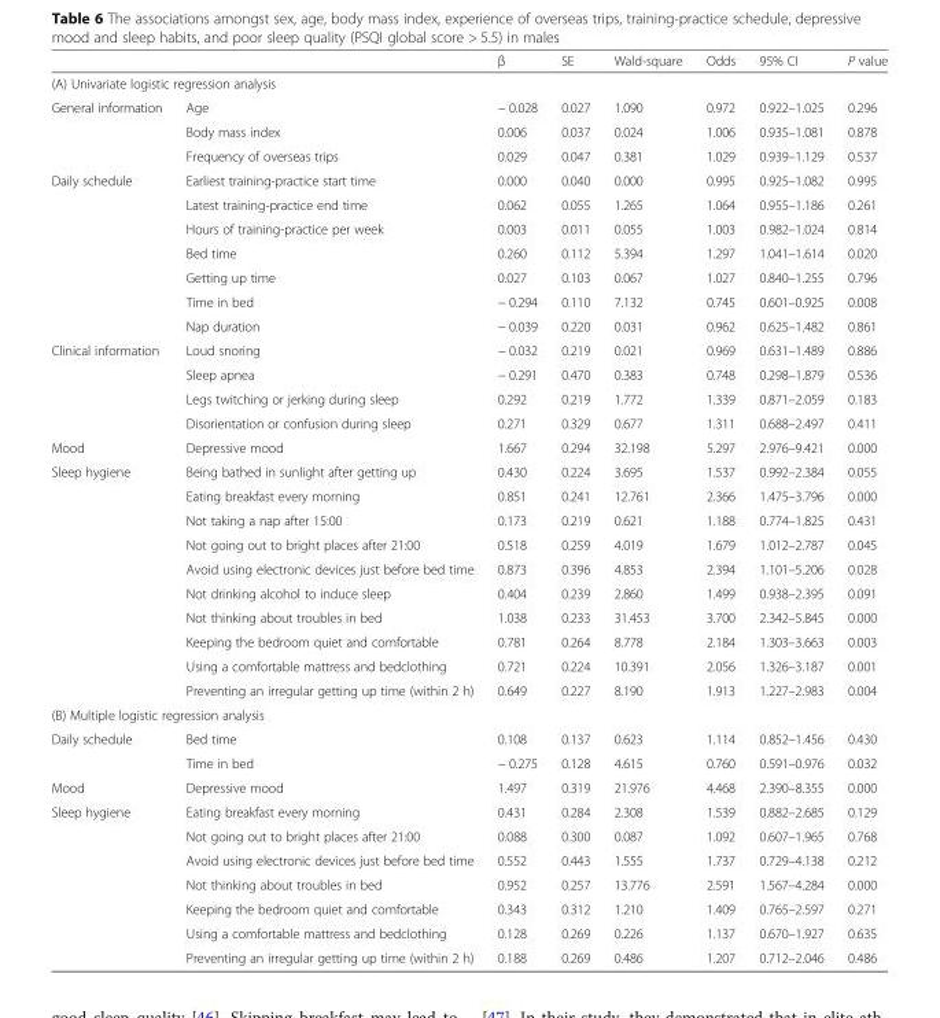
<table><thead><tr><td></td><td></td><td>β</td><td>SE</td><td>Wald-square</td><td>Odds</td><td>95% CI</td><td>P value</td></tr></thead><tbody><tr><td colspan="8">(A) Univariate logistic regression analysis</td></tr><tr><td rowspan="3">General information</td><td>Age</td><td>− 0.028</td><td>0.027</td><td>1.090</td><td>0.972</td><td>0.922–1.025</td><td>0.296</td></tr><tr><td>Body mass index</td><td>0.006</td><td>0.037</td><td>0.024</td><td>1.006</td><td>0.935–1.081</td><td>0.878</td></tr><tr><td>Frequency of overseas trips</td><td>0.029</td><td>0.047</td><td>0.381</td><td>1.029</td><td>0.939–1.129</td><td>0.537</td></tr><tr><td rowspan="7">Daily schedule</td><td>Earliest training-practice start time</td><td>0.000</td><td>0.040</td><td>0.000</td><td>0.995</td><td>0.925–1.082</td><td>0.995</td></tr><tr><td>Latest training-practice end time</td><td>0.062</td><td>0.055</td><td>1.265</td><td>1.064</td><td>0.955–1.186</td><td>0.261</td></tr><tr><td>Hours of training-practice per week</td><td>0.003</td><td>0.011</td><td>0.055</td><td>1.003</td><td>0.982–1.024</td><td>0.814</td></tr><tr><td>Bed time</td><td>0.260</td><td>0.112</td><td>5.394</td><td>1.297</td><td>1.041–1.614</td><td>0.020</td></tr><tr><td>Getting up time</td><td>0.027</td><td>0.103</td><td>0.067</td><td>1.027</td><td>0.840–1.255</td><td>0.796</td></tr><tr><td>Time in bed</td><td>− 0.294</td><td>0.110</td><td>7.132</td><td>0.745</td><td>0.601–0.925</td><td>0.008</td></tr><tr><td>Nap duration</td><td>− 0.039</td><td>0.220</td><td>0.031</td><td>0.962</td><td>0.625–1.482</td><td>0.861</td></tr><tr><td rowspan="4">Clinical information</td><td>Loud snoring</td><td>− 0.032</td><td>0.219</td><td>0.021</td><td>0.969</td><td>0.631–1.489</td><td>0.886</td></tr><tr><td>Sleep apnea</td><td>− 0.291</td><td>0.470</td><td>0.383</td><td>0.748</td><td>0.298–1.879</td><td>0.536</td></tr><tr><td>Legs twitching or jerking during sleep</td><td>0.292</td><td>0.219</td><td>1.772</td><td>1.339</td><td>0.871–2.059</td><td>0.183</td></tr><tr><td>Disorientation or confusion during sleep</td><td>0.271</td><td>0.329</td><td>0.677</td><td>1.311</td><td>0.688–2.497</td><td>0.411</td></tr><tr><td>Mood</td><td>Depressive mood</td><td>1.667</td><td>0.294</td><td>32.198</td><td>5.297</td><td>2.976–9.421</td><td>0.000</td></tr><tr><td rowspan="10">Sleep hygiene</td><td>Being bathed in sunlight after getting up</td><td>0.430</td><td>0.224</td><td>3.695</td><td>1.537</td><td>0.992–2.384</td><td>0.055</td></tr><tr><td>Eating breakfast every morning</td><td>0.851</td><td>0.241</td><td>12.761</td><td>2.366</td><td>1.475–3.796</td><td>0.000</td></tr><tr><td>Not taking a nap after 15:00</td><td>0.173</td><td>0.219</td><td>0.621</td><td>1.188</td><td>0.774–1.825</td><td>0.431</td></tr><tr><td>Not going out to bright places after 21:00</td><td>0.518</td><td>0.259</td><td>4.019</td><td>1.679</td><td>1.012–2.787</td><td>0.045</td></tr><tr><td>Avoid using electronic devices just before bed time</td><td>0.873</td><td>0.396</td><td>4.853</td><td>2.394</td><td>1.101–5.206</td><td>0.028</td></tr><tr><td>Not drinking alcohol to induce sleep</td><td>0.404</td><td>0.239</td><td>2.860</td><td>1.499</td><td>0.938–2.395</td><td>0.091</td></tr><tr><td>Not thinking about troubles in bed</td><td>1.038</td><td>0.233</td><td>31.453</td><td>3.700</td><td>2.342–5.845</td><td>0.000</td></tr><tr><td>Keeping the bedroom quiet and comfortable</td><td>0.781</td><td>0.264</td><td>8.778</td><td>2.184</td><td>1.303–3.663</td><td>0.003</td></tr><tr><td>Using a comfortable mattress and bedclothing</td><td>0.721</td><td>0.224</td><td>10.391</td><td>2.056</td><td>1.326–3.187</td><td>0.001</td></tr><tr><td>Preventing an irregular getting up time (within 2 h)</td><td>0.649</td><td>0.227</td><td>8.190</td><td>1.913</td><td>1.227–2.983</td><td>0.004</td></tr><tr><td colspan="8">(B) Multiple logistic regression analysis</td></tr><tr><td rowspan="2">Daily schedule</td><td>Bed time</td><td>0.108</td><td>0.137</td><td>0.623</td><td>1.114</td><td>0.852–1.456</td><td>0.430</td></tr><tr><td>Time in bed</td><td>− 0.275</td><td>0.128</td><td>4.615</td><td>0.760</td><td>0.591–0.976</td><td>0.032</td></tr><tr><td>Mood</td><td>Depressive mood</td><td>1.497</td><td>0.319</td><td>21.976</td><td>4.468</td><td>2.390–8.355</td><td>0.000</td></tr><tr><td rowspan="7">Sleep hygiene</td><td>Eating breakfast every morning</td><td>0.431</td><td>0.284</td><td>2.308</td><td>1.539</td><td>0.882–2.685</td><td>0.129</td></tr><tr><td>Not going out to bright places after 21:00</td><td>0.088</td><td>0.300</td><td>0.087</td><td>1.092</td><td>0.607–1.965</td><td>0.768</td></tr><tr><td>Avoid using electronic devices just before bed time</td><td>0.552</td><td>0.443</td><td>1.555</td><td>1.737</td><td>0.729–4.138</td><td>0.212</td></tr><tr><td>Not thinking about troubles in bed</td><td>0.952</td><td>0.257</td><td>13.776</td><td>2.591</td><td>1.567–4.284</td><td>0.000</td></tr><tr><td>Keeping the bedroom quiet and comfortable</td><td>0.343</td><td>0.312</td><td>1.210</td><td>1.409</td><td>0.765–2.597</td><td>0.271</td></tr><tr><td>Using a comfortable mattress and bedclothing</td><td>0.128</td><td>0.269</td><td>0.226</td><td>1.137</td><td>0.670–1.927</td><td>0.635</td></tr><tr><td>Preventing an irregular getting up time (within 2 h)</td><td>0.188</td><td>0.269</td><td>0.486</td><td>1.207</td><td>0.712–2.046</td><td>0.486</td></tr></tbody></table>